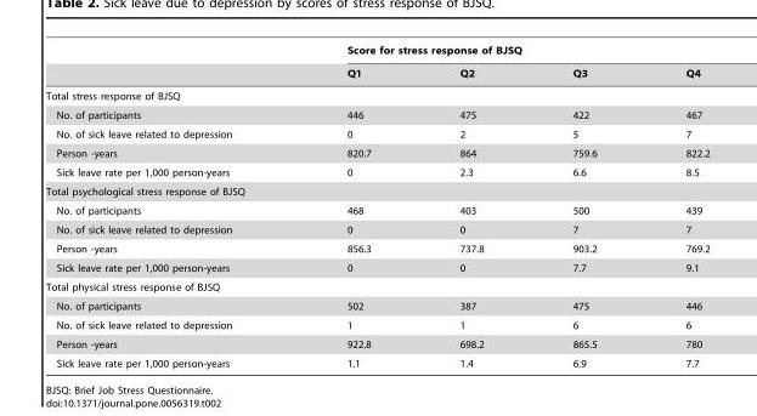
<table><thead><tr><td rowspan="2"></td><td colspan="4">Score for stress response of BJSQ</td></tr><tr><td>Q1</td><td>Q2</td><td>Q3</td><td>Q4</td></tr></thead><tbody><tr><td colspan="5">Total stress response of BJSQ</td></tr><tr><td>No. of participants</td><td>446</td><td>475</td><td>422</td><td>467</td></tr><tr><td>No. of sick leave related to depression</td><td>0</td><td>2</td><td>5</td><td>7</td></tr><tr><td>Person -years</td><td>820.7</td><td>864</td><td>759.6</td><td>822.2</td></tr><tr><td>Sick leave rate per 1,000 person-years</td><td>0</td><td>2.3</td><td>6.6</td><td>8.5</td></tr><tr><td colspan="5">Total psychological stress response of BJSQ</td></tr><tr><td>No. of participants</td><td>468</td><td>403</td><td>500</td><td>439</td></tr><tr><td>No. of sick leave related to depression</td><td>0</td><td>0</td><td>7</td><td>7</td></tr><tr><td>Person -years</td><td>856.3</td><td>737.8</td><td>903.2</td><td>769.2</td></tr><tr><td>Sick leave rate per 1,000 person-years</td><td>0</td><td>0</td><td>7.7</td><td>9.1</td></tr><tr><td colspan="5">Total physical stress response of BJSQ</td></tr><tr><td>No. of participants</td><td>502</td><td>387</td><td>475</td><td>446</td></tr><tr><td>No. of sick leave related to depression</td><td>1</td><td>1</td><td>6</td><td>6</td></tr><tr><td>Person -years</td><td>922.8</td><td>698.2</td><td>865.5</td><td>780</td></tr><tr><td>Sick leave rate per 1,000 person-years</td><td>1.1</td><td>1.4</td><td>6.9</td><td>7.7</td></tr></tbody></table>